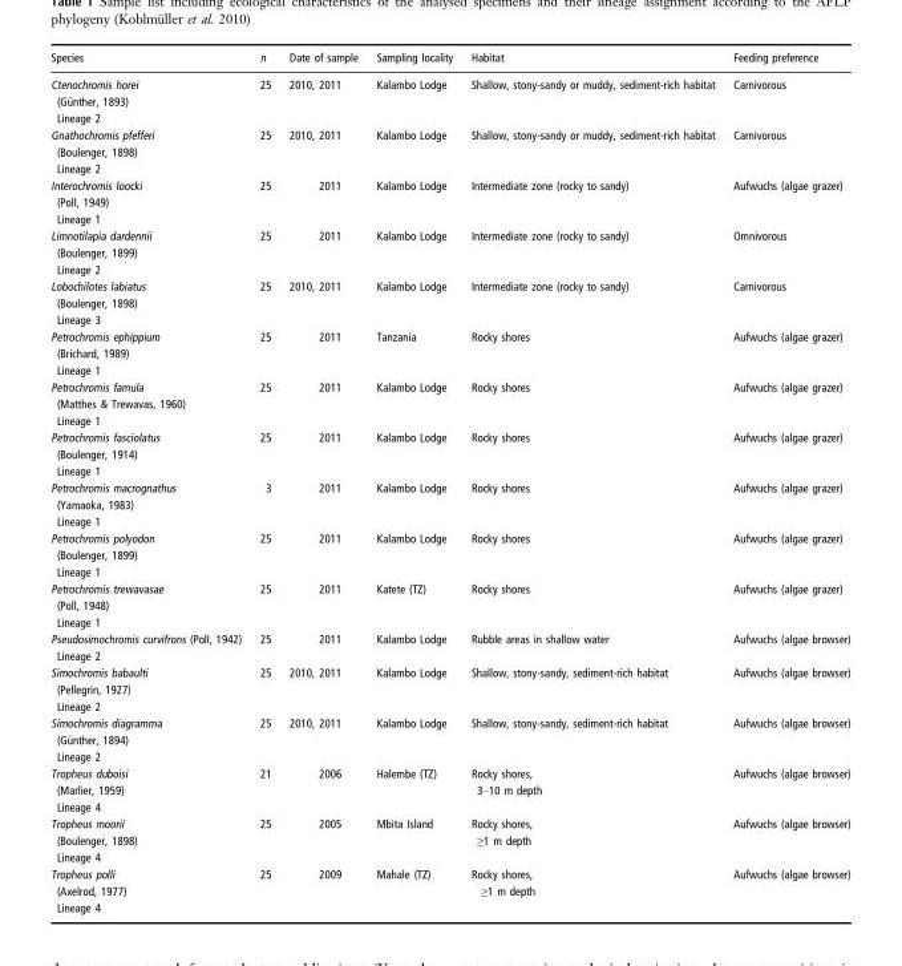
<table><thead><tr><td>Species</td><td>n</td><td>Date of sample</td><td>Sampling locality</td><td>Habitat</td><td>Feeding preference</td></tr></thead><tbody><tr><td>Ctenochromis horei (G€unther, 1893) Lineage 2</td><td>25</td><td>2010, 2011</td><td>Kalambo Lodge</td><td>Shallow, stony-sandy or muddy, sediment-rich habitat</td><td>Carnivorous</td></tr><tr><td>Gnathochromis pfefferi (Boulenger, 1898) Lineage 2</td><td>25</td><td>2010, 2011</td><td>Kalambo Lodge</td><td>Shallow, stony-sandy or muddy, sediment-rich habitat</td><td>Carnivorous</td></tr><tr><td>Interochromis loocki (Poll, 1949) Lineage 1</td><td>25</td><td>2011</td><td>Kalambo Lodge</td><td>Intermediate zone (rocky to sandy)</td><td>Aufwuchs (algae grazer)</td></tr><tr><td>Limnotilapia dardennii (Boulenger, 1899) Lineage 2</td><td>25</td><td>2011</td><td>Kalambo Lodge</td><td>Intermediate zone (rocky to sandy)</td><td>Omnivorous</td></tr><tr><td>Lobochilotes labiatus (Boulenger, 1898) Lineage 3</td><td>25</td><td>2010, 2011</td><td>Kalambo Lodge</td><td>Intermediate zone (rocky to sandy)</td><td>Carnivorous</td></tr><tr><td>Petrochromis ephippium (Brichard, 1989) Lineage 1</td><td>25</td><td>2011</td><td>Tanzania</td><td>Rocky shores</td><td>Aufwuchs (algae grazer)</td></tr><tr><td>Petrochromis famula (Matthes &amp; Trewavas, 1960) Lineage 1</td><td>25</td><td>2011</td><td>Kalambo Lodge</td><td>Rocky shores</td><td>Aufwuchs (algae grazer)</td></tr><tr><td>Petrochromis fasciolatus (Boulenger, 1914) Lineage 1</td><td>25</td><td>2011</td><td>Kalambo Lodge</td><td>Rocky shores</td><td>Aufwuchs (algae grazer)</td></tr><tr><td>Petrochromis macrognathus (Yamaoka, 1983) Lineage 1</td><td>3</td><td>2011</td><td>Kalambo Lodge</td><td>Rocky shores</td><td>Aufwuchs (algae grazer)</td></tr><tr><td>Petrochromis polyodon (Boulenger, 1899) Lineage 1</td><td>25</td><td>2011</td><td>Kalambo Lodge</td><td>Rocky shores</td><td>Aufwuchs (algae grazer)</td></tr><tr><td>Petrochromis trewavasae (Poll, 1948) Lineage 1</td><td>25</td><td>2011</td><td>Katete (TZ)</td><td>Rocky shores</td><td>Aufwuchs (algae grazer)</td></tr><tr><td>Pseudosimochromis curvifrons (Poll, 1942) Lineage 2</td><td>25</td><td>2011</td><td>Kalambo Lodge</td><td>Rubble areas in shallow water</td><td>Aufwuchs (algae browser)</td></tr><tr><td>Simochromis babaulti (Pellegrin, 1927) Lineage 2</td><td>25</td><td>2010, 2011</td><td>Kalambo Lodge</td><td>Shallow, stony-sandy, sediment-rich habitat</td><td>Aufwuchs (algae browser)</td></tr><tr><td>Simochromis diagramma (G€unther, 1894) Lineage 2</td><td>25</td><td>2010, 2011</td><td>Kalambo Lodge</td><td>Shallow, stony-sandy, sediment-rich habitat</td><td>Aufwuchs (algae browser)</td></tr><tr><td>Tropheus duboisi (Marlier, 1959) Lineage 4</td><td>21</td><td>2006</td><td>Halembe (TZ)</td><td>Rocky shores, 3–10 m depth</td><td>Aufwuchs (algae browser)</td></tr><tr><td>Tropheus moorii (Boulenger, 1898) Lineage 4</td><td>25</td><td>2005</td><td>Mbita Island</td><td>Rocky shores, ≥1 m depth</td><td>Aufwuchs (algae browser)</td></tr><tr><td>Tropheus polli (Axelrod, 1977) Lineage 4</td><td>25</td><td>2009</td><td>Mahale (TZ)</td><td>Rocky shores, ≥1 m depth</td><td>Aufwuchs (algae browser)</td></tr></tbody></table>